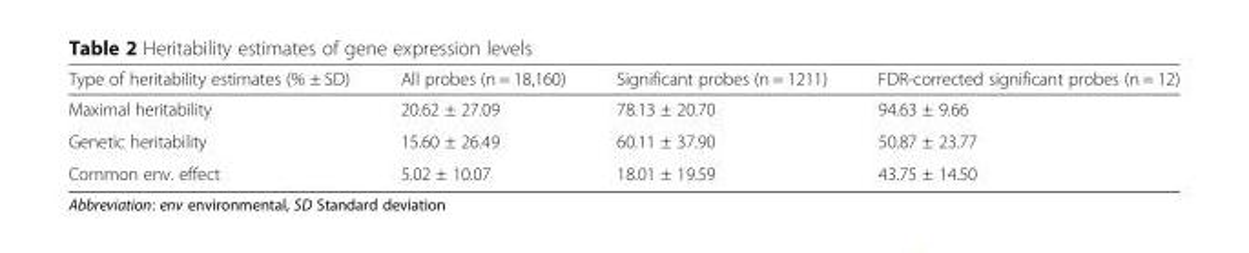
<table><thead><tr><td>Type of heritability estimates (% ± SD)</td><td>All probes (n = 18,160)</td><td>Significant probes (n = 1211)</td><td>FDR-corrected significant probes (n = 12)</td></tr></thead><tbody><tr><td>Maximal heritability</td><td>20.62 ± 27.09</td><td>78.13 ± 20.70</td><td>94.63 ± 9.66</td></tr><tr><td>Genetic heritability</td><td>15.60 ± 26.49</td><td>60.11 ± 37.90</td><td>50.87 ± 23.77</td></tr><tr><td>Common env. effect</td><td>5.02 ± 10.07</td><td>18.01 ± 19.59</td><td>43.75 ± 14.50</td></tr></tbody></table>